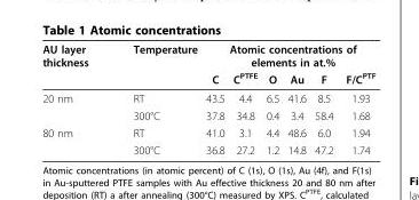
<table><thead><tr><td rowspan="2">AU layer thickness</td><td rowspan="2">Temperature</td><td colspan="6">Atomic concentrations of elements in at.%</td></tr><tr><td>C</td><td>C<sup>PTFE</sup></td><td>O</td><td>Au</td><td>F</td><td>F/C<sup>PTF</sup></td></tr></thead><tbody><tr><td rowspan="2">20 nm</td><td>RT</td><td>43.5</td><td>4.4</td><td>6.5</td><td>41.6</td><td>8.5</td><td>1.93</td></tr><tr><td>300°C</td><td>37.8</td><td>34.8</td><td>0.4</td><td>3.4</td><td>58.4</td><td>1.68</td></tr><tr><td rowspan="2">80 nm</td><td>RT</td><td>41.0</td><td>3.1</td><td>4.4</td><td>48.6</td><td>6.0</td><td>1.94</td></tr><tr><td>300°C</td><td>36.8</td><td>27.2</td><td>1.2</td><td>14.8</td><td>47.2</td><td>1.74</td></tr></tbody></table>